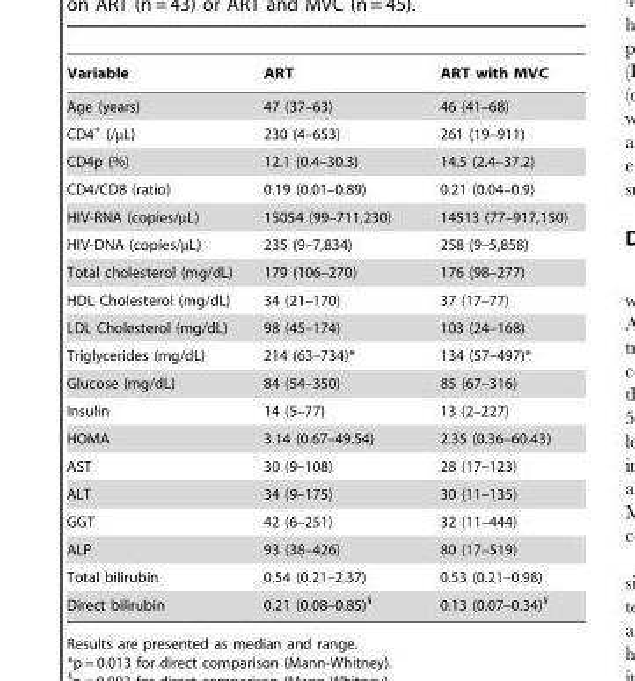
<table><thead><tr><td>Variable</td><td>ART</td><td>ART with MVC</td></tr></thead><tbody><tr><td>Age (years)</td><td>47 (37–63)</td><td>46 (41–68)</td></tr><tr><td>CD4<sup>+</sup> (/µL)</td><td>230 (4–653)</td><td>261 (19–911)</td></tr><tr><td>CD4p (%)</td><td>12.1 (0.4–30.3)</td><td>14.5 (2.4–37.2)</td></tr><tr><td>CD4/CD8 (ratio)</td><td>0.19 (0.01–0.89)</td><td>0.21 (0.04–0.9)</td></tr><tr><td>HIV-RNA (copies/µL)</td><td>15054 (99–711,230)</td><td>14513 (77–917,150)</td></tr><tr><td>HIV-DNA (copies/µL)</td><td>235 (9–7,834)</td><td>258 (9–5,858)</td></tr><tr><td>Total cholesterol (mg/dL)</td><td>179 (106–270)</td><td>176 (98–277)</td></tr><tr><td>HDL Cholesterol (mg/dL)</td><td>34 (21–170)</td><td>37 (17–77)</td></tr><tr><td>LDL Cholesterol (mg/dL)</td><td>98 (45–174)</td><td>103 (24–168)</td></tr><tr><td>Triglycerides (mg/dL)</td><td>214 (63–734)*</td><td>134 (57–497)*</td></tr><tr><td>Glucose (mg/dL)</td><td>84 (54–350)</td><td>85 (67–316)</td></tr><tr><td>Insulin</td><td>14 (5–77)</td><td>13 (2–227)</td></tr><tr><td>HOMA</td><td>3.14 (0.67–49.54)</td><td>2.35 (0.36–60.43)</td></tr><tr><td>AST</td><td>30 (9–108)</td><td>28 (17–123)</td></tr><tr><td>ALT</td><td>34 (9–175)</td><td>30 (11–135)</td></tr><tr><td>GGT</td><td>42 (6–251)</td><td>32 (11–444)</td></tr><tr><td>ALP</td><td>93 (38–426)</td><td>80 (17–519)</td></tr><tr><td>Total bilirubin</td><td>0.54 (0.21–2.37)</td><td>0.53 (0.21–0.98)</td></tr><tr><td>Direct bilirubin</td><td>0.21 (0.08–0.85)§</td><td>0.13 (0.07–0.34)§</td></tr></tbody></table>